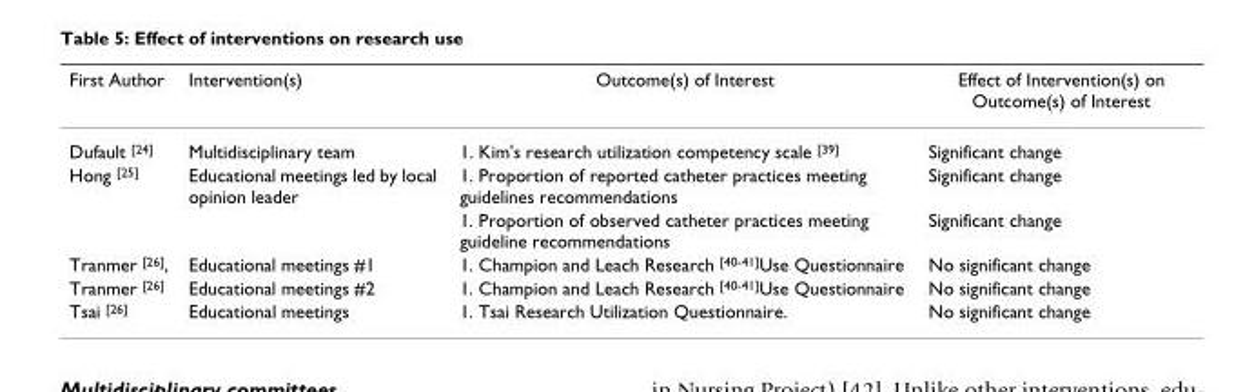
<table><thead><tr><td>First Author</td><td>Intervention(s)</td><td>Outcome(s) of Interest</td><td>Effect of Intervention(s) on Outcome(s) of Interest</td></tr></thead><tbody><tr><td>Dufault <sup>[24]</sup></td><td>Multidisciplinary team</td><td>1. Kim&#x27;s research utilization competency scale <sup>[39]</sup></td><td>Significant change</td></tr><tr><td rowspan="2">Hong <sup>[25]</sup></td><td>Educational meetings led by local opinion leader</td><td>1. Proportion of reported catheter practices meeting guidelines recommendations</td><td>Significant change</td></tr><tr><td></td><td>1. Proportion of observed catheter practices meeting guideline recommendations</td><td>Significant change</td></tr><tr><td>Tranmer <sup>[26]</sup>,</td><td>Educational meetings #1</td><td>1. Champion and Leach Research <sup>[40-41]</sup>Use Questionnaire</td><td>No significant change</td></tr><tr><td>Tranmer <sup>[26]</sup></td><td>Educational meetings #2</td><td>1. Champion and Leach Research <sup>[40-41]</sup>Use Questionnaire</td><td>No significant change</td></tr><tr><td>Tsai <sup>[26]</sup></td><td>Educational meetings</td><td>1. Tsai Research Utilization Questionnaire.</td><td>No significant change</td></tr></tbody></table>